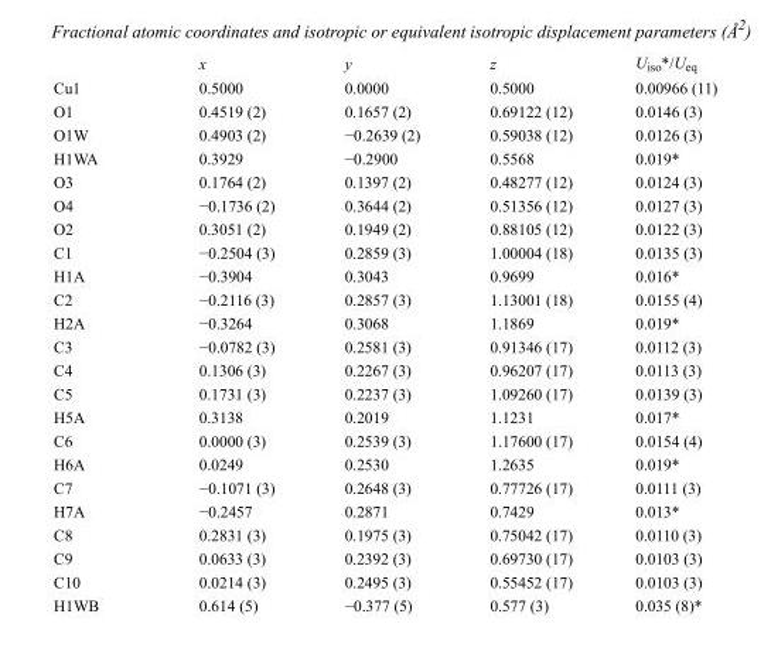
<table><thead><tr><td></td><td>x</td><td>y</td><td>z</td><td>U<sub>iso</sub>*/U<sub>eq</sub></td></tr></thead><tbody><tr><td>Cu1</td><td>0.5000</td><td>0.0000</td><td>0.5000</td><td>0.00966 (11)</td></tr><tr><td>O1</td><td>0.4519 (2)</td><td>0.1657 (2)</td><td>0.69122 (12)</td><td>0.0146 (3)</td></tr><tr><td>O1W</td><td>0.4903 (2)</td><td>−0.2639 (2)</td><td>0.59038 (12)</td><td>0.0126 (3)</td></tr><tr><td>H1WA</td><td>0.3929</td><td>−0.2900</td><td>0.5568</td><td>0.019*</td></tr><tr><td>O3</td><td>0.1764 (2)</td><td>0.1397 (2)</td><td>0.48277 (12)</td><td>0.0124 (3)</td></tr><tr><td>O4</td><td>−0.1736 (2)</td><td>0.3644 (2)</td><td>0.51356 (12)</td><td>0.0127 (3)</td></tr><tr><td>O2</td><td>0.3051 (2)</td><td>0.1949 (2)</td><td>0.88105 (12)</td><td>0.0122 (3)</td></tr><tr><td>C1</td><td>−0.2504 (3)</td><td>0.2859 (3)</td><td>1.00004 (18)</td><td>0.0135 (3)</td></tr><tr><td>H1A</td><td>−0.3904</td><td>0.3043</td><td>0.9699</td><td>0.016*</td></tr><tr><td>C2</td><td>−0.2116 (3)</td><td>0.2857 (3)</td><td>1.13001 (18)</td><td>0.0155 (4)</td></tr><tr><td>H2A</td><td>−0.3264</td><td>0.3068</td><td>1.1869</td><td>0.019*</td></tr><tr><td>C3</td><td>−0.0782 (3)</td><td>0.2581 (3)</td><td>0.91346 (17)</td><td>0.0112 (3)</td></tr><tr><td>C4</td><td>0.1306 (3)</td><td>0.2267 (3)</td><td>0.96207 (17)</td><td>0.0113 (3)</td></tr><tr><td>C5</td><td>0.1731 (3)</td><td>0.2237 (3)</td><td>1.09260 (17)</td><td>0.0139 (3)</td></tr><tr><td>H5A</td><td>0.3138</td><td>0.2019</td><td>1.1231</td><td>0.017*</td></tr><tr><td>C6</td><td>0.0000 (3)</td><td>0.2539 (3)</td><td>1.17600 (17)</td><td>0.0154 (4)</td></tr><tr><td>H6A</td><td>0.0249</td><td>0.2530</td><td>1.2635</td><td>0.019*</td></tr><tr><td>C7</td><td>−0.1071 (3)</td><td>0.2648 (3)</td><td>0.77726 (17)</td><td>0.0111 (3)</td></tr><tr><td>H7A</td><td>−0.2457</td><td>0.2871</td><td>0.7429</td><td>0.013*</td></tr><tr><td>C8</td><td>0.2831 (3)</td><td>0.1975 (3)</td><td>0.75042 (17)</td><td>0.0110 (3)</td></tr><tr><td>C9</td><td>0.0633 (3)</td><td>0.2392 (3)</td><td>0.69730 (17)</td><td>0.0103 (3)</td></tr><tr><td>C10</td><td>0.0214 (3)</td><td>0.2495 (3)</td><td>0.55452 (17)</td><td>0.0103 (3)</td></tr><tr><td>H1WB</td><td>0.614 (5)</td><td>−0.377 (5)</td><td>0.577 (3)</td><td>0.035 (8)*</td></tr></tbody></table>